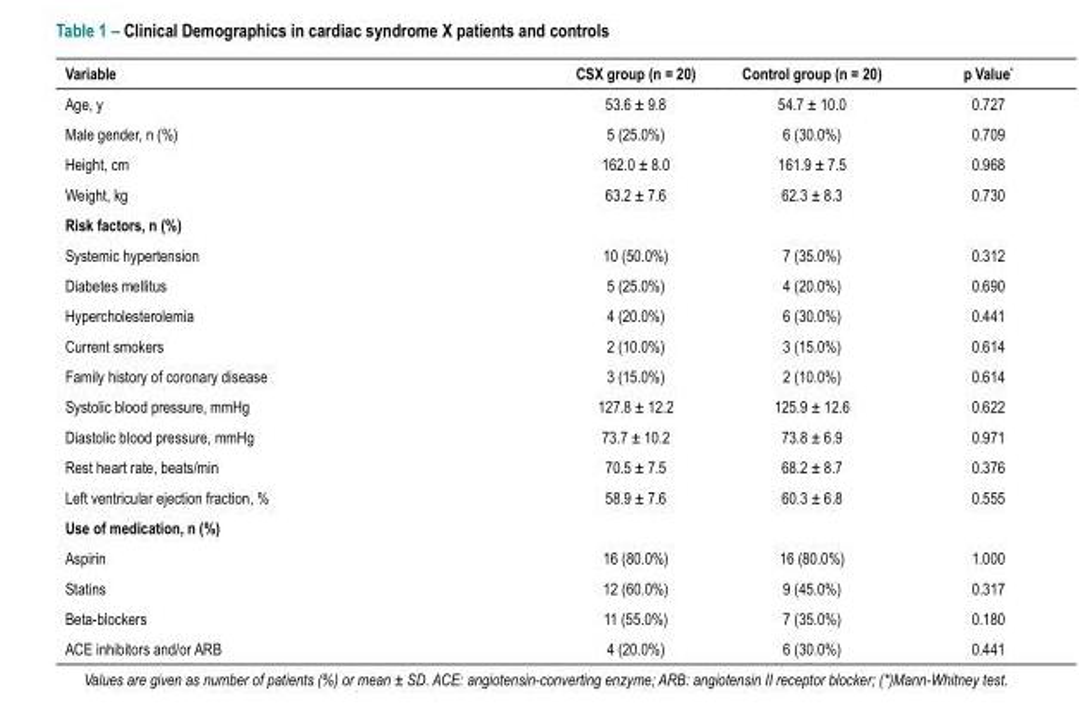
<table><thead><tr><td>Variable</td><td>CSX group (n = 20)</td><td>Control group (n = 20)</td><td>p Value*</td></tr></thead><tbody><tr><td>Age, y</td><td>53.6 ± 9.8</td><td>54.7 ± 10.0</td><td>0.727</td></tr><tr><td>Male gender, n (%)</td><td>5 (25.0%)</td><td>6 (30.0%)</td><td>0.709</td></tr><tr><td>Height, cm</td><td>162.0 ± 8.0</td><td>161.9 ± 7.5</td><td>0.968</td></tr><tr><td>Weight, kg</td><td>63.2 ± 7.6</td><td>62.3 ± 8.3</td><td>0.730</td></tr><tr><td colspan="4">Risk factors, n (%)</td></tr><tr><td>Systemic hypertension</td><td>10 (50.0%)</td><td>7 (35.0%)</td><td>0.312</td></tr><tr><td>Diabetes mellitus</td><td>5 (25.0%)</td><td>4 (20.0%)</td><td>0.690</td></tr><tr><td>Hypercholesterolemia</td><td>4 (20.0%)</td><td>6 (30.0%)</td><td>0.441</td></tr><tr><td>Current smokers</td><td>2 (10.0%)</td><td>3 (15.0%)</td><td>0.614</td></tr><tr><td>Family history of coronary disease</td><td>3 (15.0%)</td><td>2 (10.0%)</td><td>0.614</td></tr><tr><td>Systolic blood pressure, mmHg</td><td>127.8 ± 12.2</td><td>125.9 ± 12.6</td><td>0.622</td></tr><tr><td>Diastolic blood pressure, mmHg</td><td>73.7 ± 10.2</td><td>73.8 ± 6.9</td><td>0.971</td></tr><tr><td>Rest heart rate, beats/min</td><td>70.5 ± 7.5</td><td>68.2 ± 8.7</td><td>0.376</td></tr><tr><td>Left ventricular ejection fraction, %</td><td>58.9 ± 7.6</td><td>60.3 ± 6.8</td><td>0.555</td></tr><tr><td colspan="4">Use of medication, n (%)</td></tr><tr><td>Aspirin</td><td>16 (80.0%)</td><td>16 (80.0%)</td><td>1.000</td></tr><tr><td>Statins</td><td>12 (60.0%)</td><td>9 (45.0%)</td><td>0.317</td></tr><tr><td>Beta-blockers</td><td>11 (55.0%)</td><td>7 (35.0%)</td><td>0.180</td></tr><tr><td>ACE inhibitors and/or ARB</td><td>4 (20.0%)</td><td>6 (30.0%)</td><td>0.441</td></tr></tbody></table>